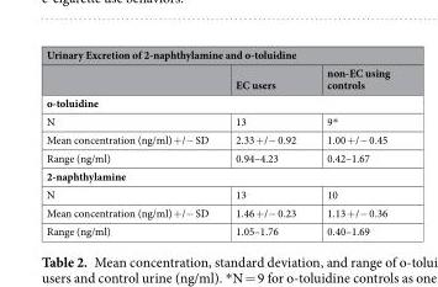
<table><thead><tr><td colspan="3">Urinary Excretion of 2-naphthylamine and o-toluidine</td></tr><tr><td></td><td>EC users</td><td>non-EC using controls</td></tr></thead><tbody><tr><td colspan="3">o-toluidine</td></tr><tr><td>N</td><td>13</td><td>9*</td></tr><tr><td>Mean concentration (ng/ml) +/− SD</td><td>2.33 +/− 0.92</td><td>1.00 +/− 0.45</td></tr><tr><td>Range (ng/ml)</td><td>0.94–4.23</td><td>0.42–1.67</td></tr><tr><td colspan="3">2-naphthylamine</td></tr><tr><td>N</td><td>13</td><td>10</td></tr><tr><td>Mean concentration (ng/ml) +/− SD</td><td>1.46 +/− 0.23</td><td>1.13 +/− 0.36</td></tr><tr><td>Range (ng/ml)</td><td>1.05–1.76</td><td>0.40–1.69</td></tr></tbody></table>